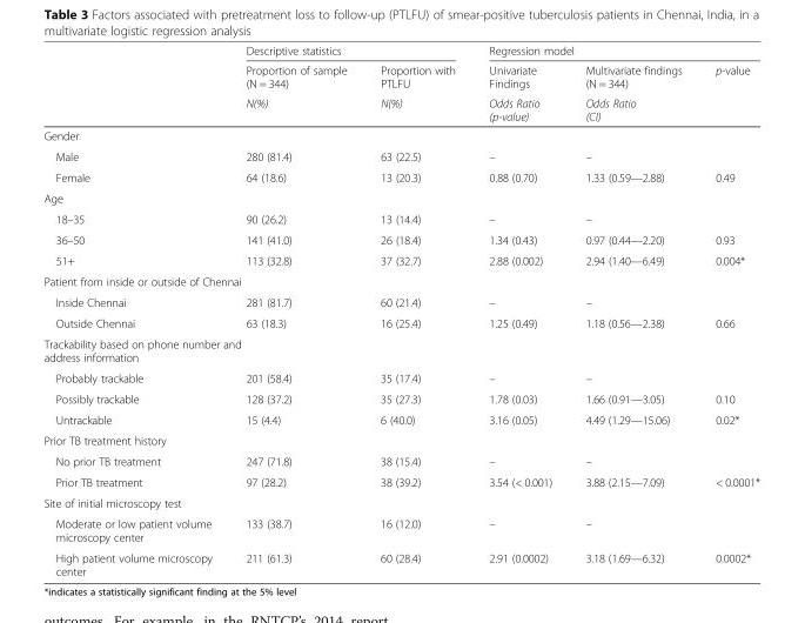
<table><thead><tr><td rowspan="3"></td><td colspan="2">Descriptive statistics</td><td colspan="3">Regression model</td></tr><tr><td rowspan="2">Proportion of sample (N = 344) N(%)</td><td rowspan="2">Proportion with PTLFU N(%)</td><td rowspan="2">Univariate Findings Odds Ratio (p-value)</td><td rowspan="2">Multivariate findings (N = 344) Odds Ratio (CI)</td><td rowspan="2">p-value</td></tr><tr></tr></thead><tbody><tr><td colspan="6">Gender</td></tr><tr><td>Male</td><td>280 (81.4)</td><td>63 (22.5)</td><td>–</td><td>–</td><td></td></tr><tr><td>Female</td><td>64 (18.6)</td><td>13 (20.3)</td><td>0.88 (0.70)</td><td>1.33 (0.59—2.88)</td><td>0.49</td></tr><tr><td colspan="6">Age</td></tr><tr><td>18–35</td><td>90 (26.2)</td><td>13 (14.4)</td><td>–</td><td>–</td><td></td></tr><tr><td>36–50</td><td>141 (41.0)</td><td>26 (18.4)</td><td>1.34 (0.43)</td><td>0.97 (0.44—2.20)</td><td>0.93</td></tr><tr><td>51+</td><td>113 (32.8)</td><td>37 (32.7)</td><td>2.88 (0.002)</td><td>2.94 (1.40—6.49)</td><td>0.004*</td></tr><tr><td colspan="6">Patient from inside or outside of Chennai</td></tr><tr><td>Inside Chennai</td><td>281 (81.7)</td><td>60 (21.4)</td><td>–</td><td>–</td><td></td></tr><tr><td>Outside Chennai</td><td>63 (18.3)</td><td>16 (25.4)</td><td>1.25 (0.49)</td><td>1.18 (0.56—2.38)</td><td>0.66</td></tr><tr><td colspan="6">Trackability based on phone number and address information</td></tr><tr><td>Probably trackable</td><td>201 (58.4)</td><td>35 (17.4)</td><td>–</td><td>–</td><td></td></tr><tr><td>Possibly trackable</td><td>128 (37.2)</td><td>35 (27.3)</td><td>1.78 (0.03)</td><td>1.66 (0.91—3.05)</td><td>0.10</td></tr><tr><td>Untrackable</td><td>15 (4.4)</td><td>6 (40.0)</td><td>3.16 (0.05)</td><td>4.49 (1.29—15.06)</td><td>0.02*</td></tr><tr><td colspan="6">Prior TB treatment history</td></tr><tr><td>No prior TB treatment</td><td>247 (71.8)</td><td>38 (15.4)</td><td>–</td><td>–</td><td></td></tr><tr><td>Prior TB treatment</td><td>97 (28.2)</td><td>38 (39.2)</td><td>3.54 (&lt; 0.001)</td><td>3.88 (2.15—7.09)</td><td>&lt; 0.0001*</td></tr><tr><td colspan="6">Site of initial microscopy test</td></tr><tr><td>Moderate or low patient volume microscopy center</td><td>133 (38.7)</td><td>16 (12.0)</td><td>–</td><td>–</td><td></td></tr><tr><td>High patient volume microscopy center</td><td>211 (61.3)</td><td>60 (28.4)</td><td>2.91 (0.0002)</td><td>3.18 (1.69—6.32)</td><td>0.0002*</td></tr></tbody></table>